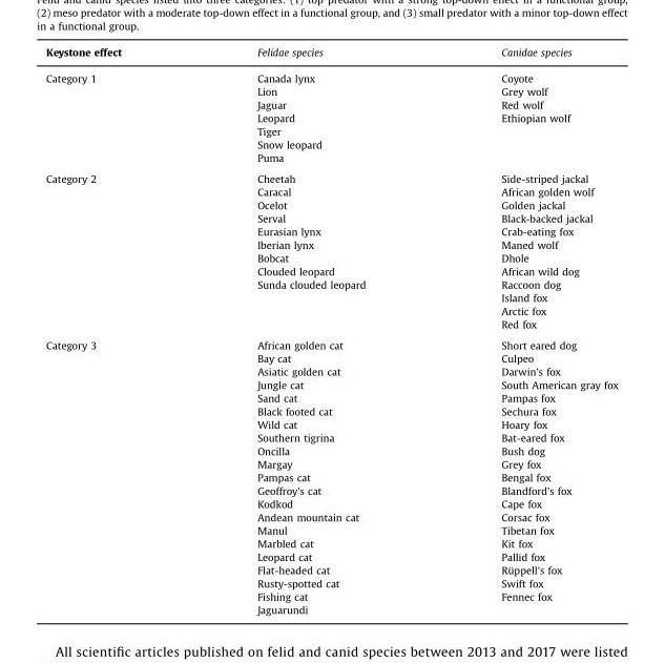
<table><thead><tr><td>Keystone effect</td><td>Felidae species</td><td>Canidae species</td></tr></thead><tbody><tr><td rowspan="7">Category 1</td><td>Canada lynx</td><td>Coyote</td></tr><tr><td>Lion</td><td>Grey wolf</td></tr><tr><td>Jaguar</td><td>Red wolf</td></tr><tr><td>Leopard</td><td>Ethiopian wolf</td></tr><tr><td>Tiger</td><td></td></tr><tr><td>Snow leopard</td><td></td></tr><tr><td>Puma</td><td></td></tr><tr><td rowspan="12">Category 2</td><td>Cheetah</td><td>Side-striped jackal</td></tr><tr><td>Caracal</td><td>African golden wolf</td></tr><tr><td>Ocelot</td><td>Golden jackal</td></tr><tr><td>Serval</td><td>Black-backed jackal</td></tr><tr><td>Eurasian lynx</td><td>Crab-eating fox</td></tr><tr><td>Iberian lynx</td><td>Maned wolf</td></tr><tr><td>Bobcat</td><td>Dhole</td></tr><tr><td>Clouded leopard</td><td>African wild dog</td></tr><tr><td>Sunda clouded leopard</td><td>Raccoon dog</td></tr><tr><td></td><td>Island fox</td></tr><tr><td></td><td>Arctic fox</td></tr><tr><td></td><td>Red fox</td></tr><tr><td rowspan="21">Category 3</td><td>African golden cat</td><td>Short eared dog</td></tr><tr><td>Bay cat</td><td>Culpeo</td></tr><tr><td>Asiatic golden cat</td><td>Darwin&#x27;s fox</td></tr><tr><td>Jungle cat</td><td>South American gray fox</td></tr><tr><td>Sand cat</td><td>Pampas fox</td></tr><tr><td>Black footed cat</td><td>Sechura fox</td></tr><tr><td>Wild cat</td><td>Hoary fox</td></tr><tr><td>Southern tigrina</td><td>Bat-eared fox</td></tr><tr><td>Oncilla</td><td>Bush dog</td></tr><tr><td>Margay</td><td>Grey fox</td></tr><tr><td>Pampas cat</td><td>Bengal fox</td></tr><tr><td>Geoffroy&#x27;s cat</td><td>Blandford&#x27;s fox</td></tr><tr><td>Kodkod</td><td>Cape fox</td></tr><tr><td>Andean mountain cat</td><td>Corsac fox</td></tr><tr><td>Manul</td><td>Tibetan fox</td></tr><tr><td>Marbled cat</td><td>Kit fox</td></tr><tr><td>Leopard cat</td><td>Pallid fox</td></tr><tr><td>Flat-headed cat</td><td>Rüppell&#x27;s fox</td></tr><tr><td>Rusty-spotted cat</td><td>Swift fox</td></tr><tr><td>Fishing cat</td><td>Fennec fox</td></tr><tr><td>Jaguarundi</td><td></td></tr></tbody></table>